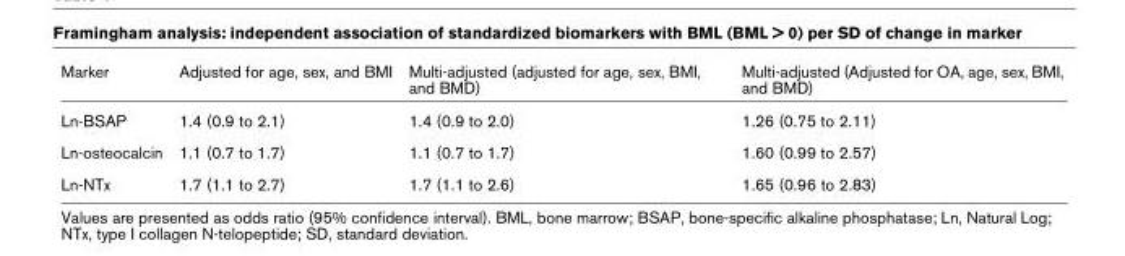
<table><thead><tr><td>Marker</td><td>Adjusted for age, sex, and BMI</td><td>Multi-adjusted (adjusted for age, sex, BMI, and BMD)</td><td>Multi-adjusted (Adjusted for OA, age, sex, BMI, and BMD)</td></tr></thead><tbody><tr><td>Ln-BSAP</td><td>1.4 (0.9 to 2.1)</td><td>1.4 (0.9 to 2.0)</td><td>1.26 (0.75 to 2.11)</td></tr><tr><td>Ln-osteocalcin</td><td>1.1 (0.7 to 1.7)</td><td>1.1 (0.7 to 1.7)</td><td>1.60 (0.99 to 2.57)</td></tr><tr><td>Ln-NTx</td><td>1.7 (1.1 to 2.7)</td><td>1.7 (1.1 to 2.6)</td><td>1.65 (0.96 to 2.83)</td></tr></tbody></table>